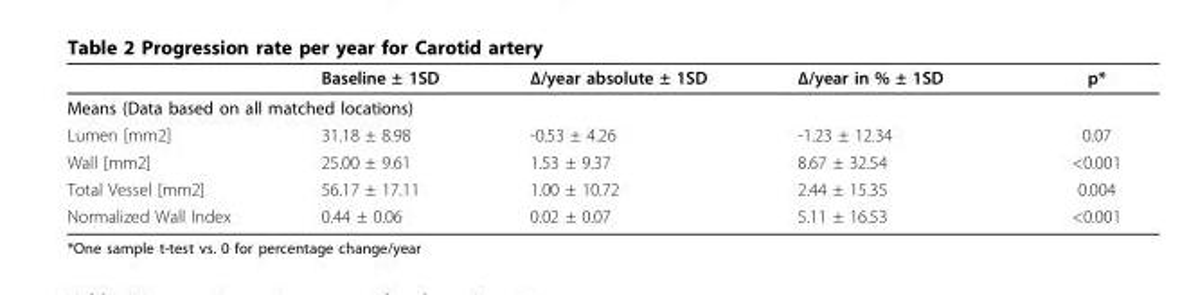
<table><thead><tr><td></td><td>Baseline ± 1SD</td><td>Δ/year absolute ± 1SD</td><td>Δ/year in % ± 1SD</td><td>p*</td></tr></thead><tbody><tr><td colspan="5">Means (Data based on all matched locations)</td></tr><tr><td>Lumen [mm2]</td><td>31.18 ± 8.98</td><td>-0.53 ± 4.26</td><td>-1.23 ± 12.34</td><td>0.07</td></tr><tr><td>Wall [mm2]</td><td>25.00 ± 9.61</td><td>1.53 ± 9.37</td><td>8.67 ± 32.54</td><td>&lt;0.001</td></tr><tr><td>Total Vessel [mm2]</td><td>56.17 ± 17.11</td><td>1.00 ± 10.72</td><td>2.44 ± 15.35</td><td>0.004</td></tr><tr><td>Normalized Wall Index</td><td>0.44 ± 0.06</td><td>0.02 ± 0.07</td><td>5.11 ± 16.53</td><td>&lt;0.001</td></tr></tbody></table>